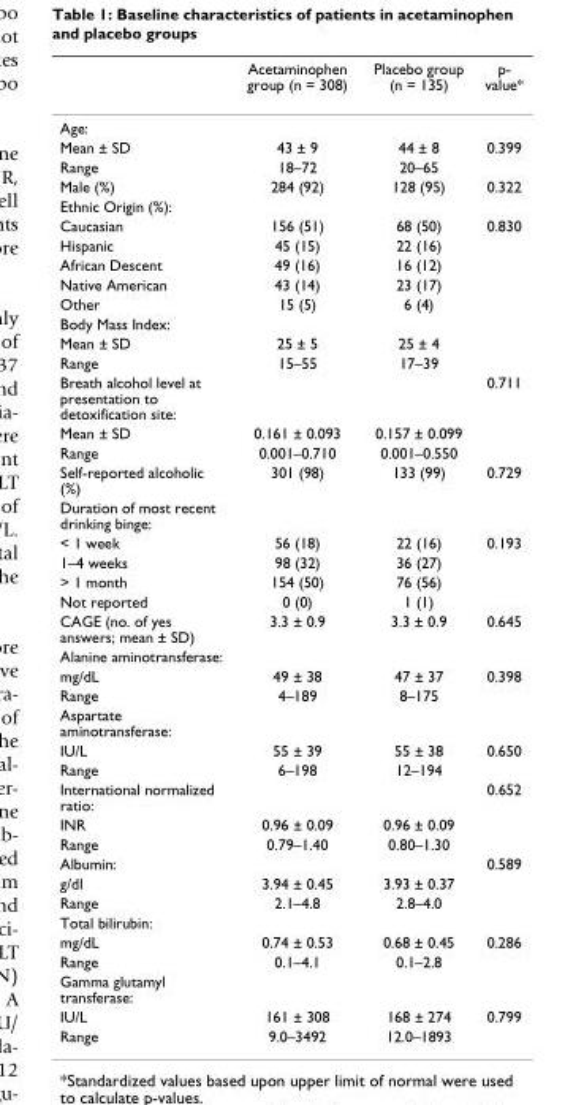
<table><thead><tr><td></td><td>Acetaminophen group (n = 308)</td><td>Placebo group (n = 135)</td><td>p- value*</td></tr></thead><tbody><tr><td colspan="4">Age:</td></tr><tr><td>Mean ± SD</td><td>43 ± 9</td><td>44 ± 8</td><td>0.399</td></tr><tr><td>Range</td><td>18–72</td><td>20–65</td><td></td></tr><tr><td>Male (%)</td><td>284 (92)</td><td>128 (95)</td><td>0.322</td></tr><tr><td colspan="4">Ethnic Origin (%):</td></tr><tr><td>Caucasian</td><td>156 (51)</td><td>68 (50)</td><td>0.830</td></tr><tr><td>Hispanic</td><td>45 (15)</td><td>22 (16)</td><td></td></tr><tr><td>African Descent</td><td>49 (16)</td><td>16 (12)</td><td></td></tr><tr><td>Native American</td><td>43 (14)</td><td>23 (17)</td><td></td></tr><tr><td>Other</td><td>15 (5)</td><td>6 (4)</td><td></td></tr><tr><td colspan="4">Body Mass Index:</td></tr><tr><td>Mean ± SD</td><td>25 ± 5</td><td>25 ± 4</td><td></td></tr><tr><td>Range</td><td>15–55</td><td>17–39</td><td></td></tr><tr><td>Breath alcohol level at presentation to detoxification site:</td><td></td><td></td><td>0.711</td></tr><tr><td>Mean ± SD</td><td>0.161 ± 0.093</td><td>0.157 ± 0.099</td><td></td></tr><tr><td>Range</td><td>0.001–0.710</td><td>0.001–0.550</td><td></td></tr><tr><td>Self-reported alcoholic (%)</td><td>301 (98)</td><td>133 (99)</td><td>0.729</td></tr><tr><td colspan="4">Duration of most recent drinking binge:</td></tr><tr><td>&lt; 1 week</td><td>56 (18)</td><td>22 (16)</td><td>0.193</td></tr><tr><td>1–4 weeks</td><td>98 (32)</td><td>36 (27)</td><td></td></tr><tr><td>&gt; 1 month</td><td>154 (50)</td><td>76 (56)</td><td></td></tr><tr><td>Not reported</td><td>0 (0)</td><td>1 (1)</td><td></td></tr><tr><td>CAGE (no. of yes answers; mean ± SD)</td><td>3.3 ± 0.9</td><td>3.3 ± 0.9</td><td>0.645</td></tr><tr><td colspan="4">Alanine aminotransferase:</td></tr><tr><td>mg/dL</td><td>49 ± 38</td><td>47 ± 37</td><td>0.398</td></tr><tr><td>Range</td><td>4–189</td><td>8–175</td><td></td></tr><tr><td colspan="4">Aspartate aminotransferase:</td></tr><tr><td>IU/L</td><td>55 ± 39</td><td>55 ± 38</td><td>0.650</td></tr><tr><td>Range</td><td>6–198</td><td>12–194</td><td></td></tr><tr><td>International normalized ratio:</td><td></td><td></td><td>0.652</td></tr><tr><td>INR</td><td>0.96 ± 0.09</td><td>0.96 ± 0.09</td><td></td></tr><tr><td>Range</td><td>0.79–1.40</td><td>0.80–1.30</td><td></td></tr><tr><td>Albumin:</td><td></td><td></td><td>0.589</td></tr><tr><td>g/dl</td><td>3.94 ± 0.45</td><td>3.93 ± 0.37</td><td></td></tr><tr><td>Range</td><td>2.1–4.8</td><td>2.8–4.0</td><td></td></tr><tr><td colspan="4">Total bilirubin:</td></tr><tr><td>mg/dL</td><td>0.74 ± 0.53</td><td>0.68 ± 0.45</td><td>0.286</td></tr><tr><td>Range</td><td>0.1–4.1</td><td>0.1–2.8</td><td></td></tr><tr><td colspan="4">Gamma glutamyl transferase:</td></tr><tr><td>IU/L</td><td>161 ± 308</td><td>168 ± 274</td><td>0.799</td></tr><tr><td>Range</td><td>9.0–3492</td><td>12.0–1893</td><td></td></tr></tbody></table>